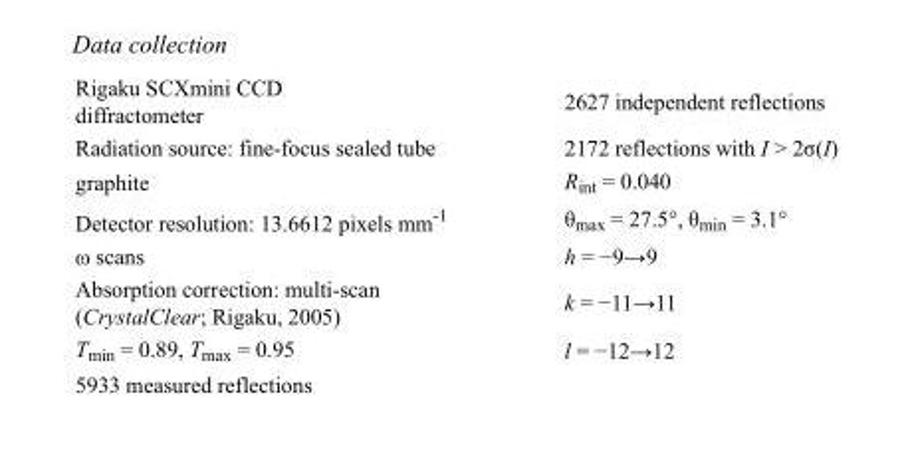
<table><tbody><tr><td>Rigaku SCXmini CCD diffractometer</td><td>2627 independent reflections</td></tr><tr><td>Radiation source: fine-focus sealed tube</td><td>2172 reflections with I &gt; 2σ(I)</td></tr><tr><td>graphite</td><td>R<sub>int</sub> = 0.040</td></tr><tr><td>Detector resolution: 13.6612 pixels mm<sup>-1</sup></td><td>θ<sub>max</sub> = 27.5°, θ<sub>min</sub> = 3.1°</td></tr><tr><td>ω scans</td><td>h = −9→9</td></tr><tr><td>Absorption correction: multi-scan (CrystalClear; Rigaku, 2005)</td><td>k = −11→11</td></tr><tr><td>T<sub>min</sub> = 0.89, T<sub>max</sub> = 0.95</td><td>l = −12→12</td></tr><tr><td>5933 measured reflections</td><td></td></tr></tbody></table>